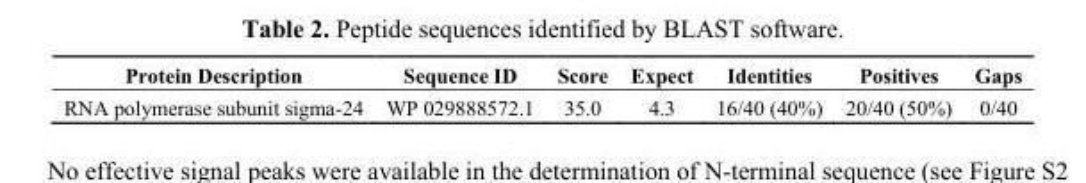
<table><thead><tr><td>Protein Description</td><td>Sequence ID</td><td>Score</td><td>Expect</td><td>Identities</td><td>Positives</td><td>Gaps</td></tr></thead><tbody><tr><td>RNA polymerase subunit sigma-24</td><td>WP 029888572.1</td><td>35.0</td><td>4.3</td><td>16/40 (40%)</td><td>20/40 (50%)</td><td>0/40</td></tr></tbody></table>